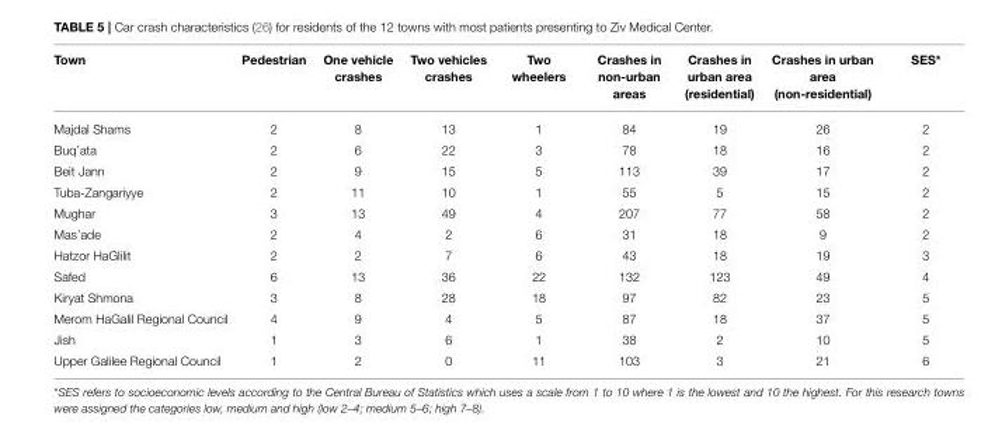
<table><thead><tr><td>Town</td><td>Pedestrian</td><td>One vehicle crashes</td><td>Two vehicles crashes</td><td>Two wheelers</td><td>Crashes in non-urban areas</td><td>Crashes in urban area (residential)</td><td>Crashes in urban area (non-residential)</td><td>SES*</td></tr></thead><tbody><tr><td>Majdal Shams</td><td>2</td><td>8</td><td>13</td><td>1</td><td>84</td><td>19</td><td>26</td><td>2</td></tr><tr><td>Buq’ata</td><td>2</td><td>6</td><td>22</td><td>3</td><td>78</td><td>18</td><td>16</td><td>2</td></tr><tr><td>Beit Jann</td><td>2</td><td>9</td><td>15</td><td>5</td><td>113</td><td>39</td><td>17</td><td>2</td></tr><tr><td>Tuba-Zangariyye</td><td>2</td><td>11</td><td>10</td><td>1</td><td>55</td><td>5</td><td>15</td><td>2</td></tr><tr><td>Mughar</td><td>3</td><td>13</td><td>49</td><td>4</td><td>207</td><td>77</td><td>58</td><td>2</td></tr><tr><td>Mas’ade</td><td>2</td><td>4</td><td>2</td><td>6</td><td>31</td><td>18</td><td>9</td><td>2</td></tr><tr><td>Hatzor HaGlilit</td><td>2</td><td>2</td><td>7</td><td>6</td><td>43</td><td>18</td><td>19</td><td>3</td></tr><tr><td>Safed</td><td>6</td><td>13</td><td>36</td><td>22</td><td>132</td><td>123</td><td>49</td><td>4</td></tr><tr><td>Kiryat Shmona</td><td>3</td><td>8</td><td>28</td><td>18</td><td>97</td><td>82</td><td>23</td><td>5</td></tr><tr><td>Merom HaGalil Regional Council</td><td>4</td><td>9</td><td>4</td><td>5</td><td>87</td><td>18</td><td>37</td><td>5</td></tr><tr><td>Jish</td><td>1</td><td>3</td><td>6</td><td>1</td><td>38</td><td>2</td><td>10</td><td>5</td></tr><tr><td>Upper Galilee Regional Council</td><td>1</td><td>2</td><td>0</td><td>11</td><td>103</td><td>3</td><td>21</td><td>6</td></tr></tbody></table>